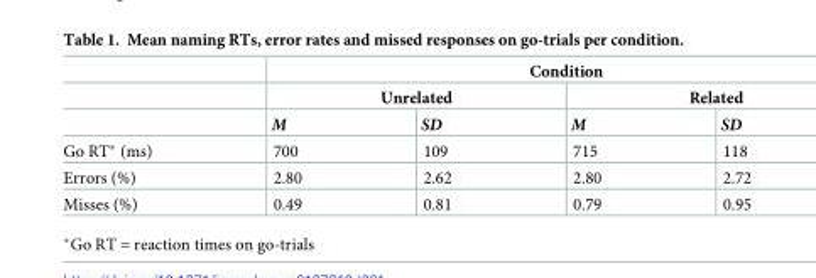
<table><thead><tr><td rowspan="3"></td><td colspan="4">Condition</td></tr><tr><td colspan="2">Unrelated</td><td colspan="2">Related</td></tr><tr><td>M</td><td>SD</td><td>M</td><td>SD</td></tr></thead><tbody><tr><td>Go RT* (ms)</td><td>700</td><td>109</td><td>715</td><td>118</td></tr><tr><td>Errors (%)</td><td>2.80</td><td>2.62</td><td>2.80</td><td>2.72</td></tr><tr><td>Misses (%)</td><td>0.49</td><td>0.81</td><td>0.79</td><td>0.95</td></tr></tbody></table>